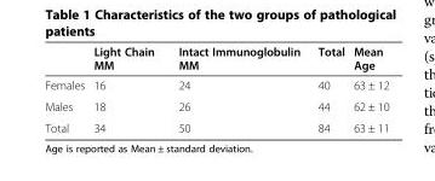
<table><thead><tr><td></td><td>Light Chain MM</td><td>Intact Immunoglobulin MM</td><td>Total</td><td>Mean Age</td></tr></thead><tbody><tr><td>Females</td><td>16</td><td>24</td><td>40</td><td>63 ± 12</td></tr><tr><td>Males</td><td>18</td><td>26</td><td>44</td><td>62 ± 10</td></tr><tr><td>Total</td><td>34</td><td>50</td><td>84</td><td>63 ± 11</td></tr></tbody></table>